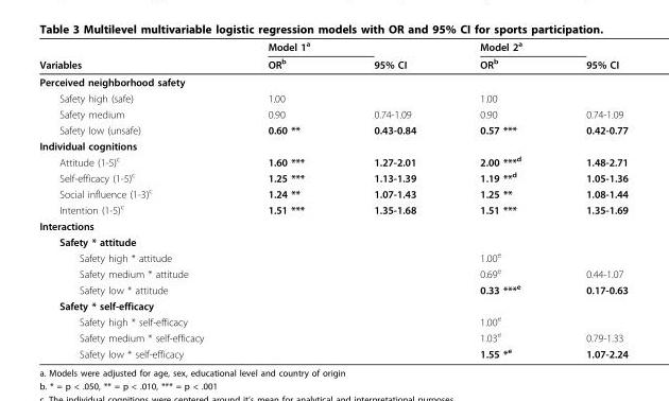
<table><thead><tr><td rowspan="2">Variables</td><td rowspan="2">Model 1<sup>a</sup> OR<sup>b</sup></td><td rowspan="2">95% CI</td><td rowspan="2">Model 2<sup>a</sup> OR<sup>b</sup></td><td rowspan="2">95% CI</td></tr><tr></tr></thead><tbody><tr><td colspan="5">Perceived neighborhood safety</td></tr><tr><td>Safety high (safe)</td><td>1.00</td><td></td><td>1.00</td><td></td></tr><tr><td>Safety medium</td><td>0.90</td><td>0.74-1.09</td><td>0.90</td><td>0.74-1.09</td></tr><tr><td>Safety low (unsafe)</td><td>0.60 **</td><td>0.43-0.84</td><td>0.57 ***</td><td>0.42-0.77</td></tr><tr><td colspan="5">Individual cognitions</td></tr><tr><td>Attitude (1-5)<sup>c</sup></td><td>1.60 ***</td><td>1.27-2.01</td><td>2.00 ***<sup>d</sup></td><td>1.48-2.71</td></tr><tr><td>Self-efficacy (1-5)<sup>c</sup></td><td>1.25 ***</td><td>1.13-1.39</td><td>1.19 **<sup>d</sup></td><td>1.05-1.36</td></tr><tr><td>Social influence (1-3)<sup>c</sup></td><td>1.24 **</td><td>1.07-1.43</td><td>1.25 **</td><td>1.08-1.44</td></tr><tr><td>Intention (1-5)<sup>c</sup></td><td>1.51 ***</td><td>1.35-1.68</td><td>1.51 ***</td><td>1.35-1.69</td></tr><tr><td colspan="5">Interactions</td></tr><tr><td colspan="5">Safety * attitude</td></tr><tr><td>Safety high * attitude</td><td></td><td></td><td>1.00<sup>e</sup></td><td></td></tr><tr><td>Safety medium * attitude</td><td></td><td></td><td>0.69<sup>e</sup></td><td>0.44-1.07</td></tr><tr><td>Safety low * attitude</td><td></td><td></td><td>0.33 ***<sup>e</sup></td><td>0.17-0.63</td></tr><tr><td colspan="5">Safety * self-efficacy</td></tr><tr><td>Safety high * self-efficacy</td><td></td><td></td><td>1.00<sup>e</sup></td><td></td></tr><tr><td>Safety medium * self-efficacy</td><td></td><td></td><td>1.03<sup>e</sup></td><td>0.79-1.33</td></tr><tr><td>Safety low * self-efficacy</td><td></td><td></td><td>1.55 *<sup>e</sup></td><td>1.07-2.24</td></tr></tbody></table>